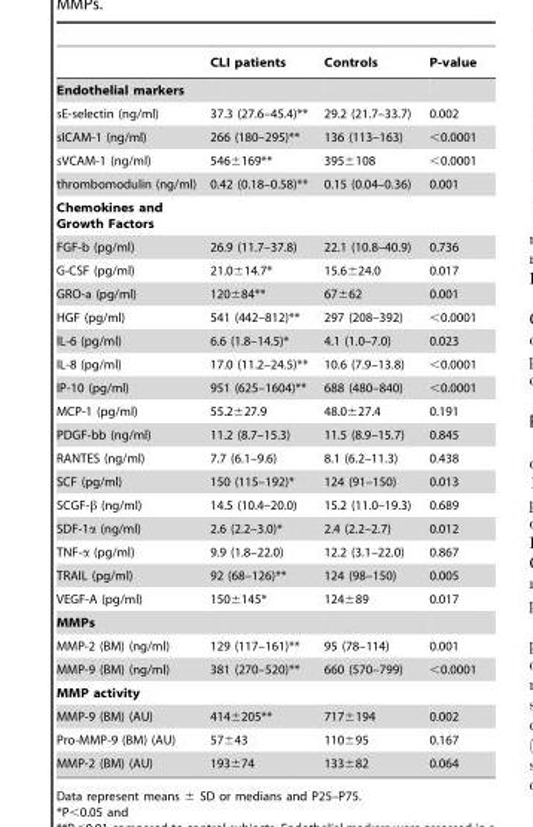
<table><thead><tr><td></td><td>CLI patients</td><td>Controls</td><td>P-value</td></tr></thead><tbody><tr><td colspan="4">Endothelial markers</td></tr><tr><td>sE-selectin (ng/ml)</td><td>37.3 (27.6–45.4)**</td><td>29.2 (21.7–33.7)</td><td>0.002</td></tr><tr><td>sICAM-1 (ng/ml)</td><td>266 (180–295)**</td><td>136 (113–163)</td><td>&lt;0.0001</td></tr><tr><td>sVCAM-1 (ng/ml)</td><td>546±169**</td><td>395±108</td><td>&lt;0.0001</td></tr><tr><td>thrombomodulin (ng/ml)</td><td>0.42 (0.18–0.58)**</td><td>0.15 (0.04–0.36)</td><td>0.001</td></tr><tr><td colspan="4">Chemokines and Growth Factors</td></tr><tr><td>FGF-b (pg/ml)</td><td>26.9 (11.7–37.8)</td><td>22.1 (10.8–40.9)</td><td>0.736</td></tr><tr><td>G-CSF (pg/ml)</td><td>21.0±14.7*</td><td>15.6±24.0</td><td>0.017</td></tr><tr><td>GRO-a (pg/ml)</td><td>120±84**</td><td>67±62</td><td>0.001</td></tr><tr><td>HGF (pg/ml)</td><td>541 (442–812)**</td><td>297 (208–392)</td><td>&lt;0.0001</td></tr><tr><td>IL-6 (pg/ml)</td><td>6.6 (1.8–14.5)*</td><td>4.1 (1.0–7.0)</td><td>0.023</td></tr><tr><td>IL-8 (pg/ml)</td><td>17.0 (11.2–24.5)**</td><td>10.6 (7.9–13.8)</td><td>&lt;0.0001</td></tr><tr><td>IP-10 (pg/ml)</td><td>951 (625–1604)**</td><td>688 (480–840)</td><td>&lt;0.0001</td></tr><tr><td>MCP-1 (pg/ml)</td><td>55.2±27.9</td><td>48.0±27.4</td><td>0.191</td></tr><tr><td>PDGF-bb (ng/ml)</td><td>11.2 (8.7–15.3)</td><td>11.5 (8.9–15.7)</td><td>0.845</td></tr><tr><td>RANTES (ng/ml)</td><td>7.7 (6.1–9.6)</td><td>8.1 (6.2–11.3)</td><td>0.438</td></tr><tr><td>SCF (pg/ml)</td><td>150 (115–192)*</td><td>124 (91–150)</td><td>0.013</td></tr><tr><td>SCGF-β (ng/ml)</td><td>14.5 (10.4–20.0)</td><td>15.2 (11.0–19.3)</td><td>0.689</td></tr><tr><td>SDF-1α (ng/ml)</td><td>2.6 (2.2–3.0)*</td><td>2.4 (2.2–2.7)</td><td>0.012</td></tr><tr><td>TNF-α (pg/ml)</td><td>9.9 (1.8–22.0)</td><td>12.2 (3.1–22.0)</td><td>0.867</td></tr><tr><td>TRAIL (pg/ml)</td><td>92 (68–126)**</td><td>124 (98–150)</td><td>0.005</td></tr><tr><td>VEGF-A (pg/ml)</td><td>150±145*</td><td>124±89</td><td>0.017</td></tr><tr><td colspan="4">MMPs</td></tr><tr><td>MMP-2 (BM) (ng/ml)</td><td>129 (117–161)**</td><td>95 (78–114)</td><td>0.001</td></tr><tr><td>MMP-9 (BM) (ng/ml)</td><td>381 (270–520)**</td><td>660 (570–799)</td><td>&lt;0.0001</td></tr><tr><td colspan="4">MMP activity</td></tr><tr><td>MMP-9 (BM) (AU)</td><td>414±205**</td><td>717±194</td><td>0.002</td></tr><tr><td>Pro-MMP-9 (BM) (AU)</td><td>57±43</td><td>110±95</td><td>0.167</td></tr><tr><td>MMP-2 (BM) (AU)</td><td>193±74</td><td>133±82</td><td>0.064</td></tr></tbody></table>